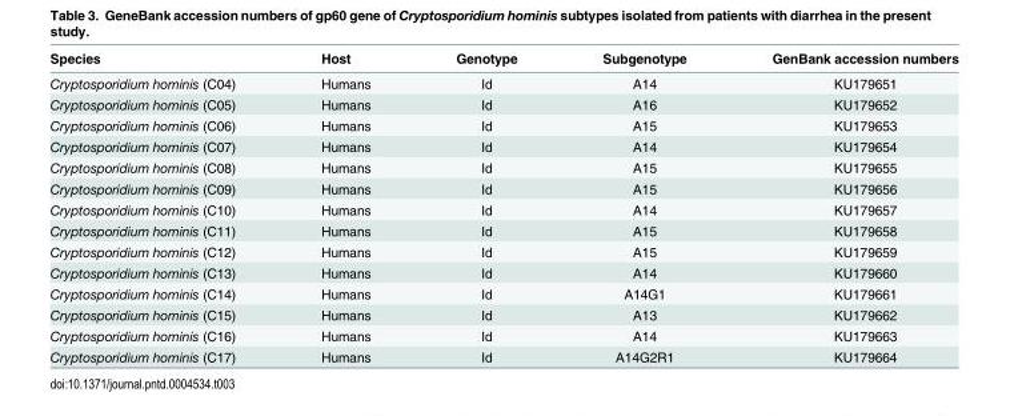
<table><thead><tr><td>Species</td><td>Host</td><td>Genotype</td><td>Subgenotype</td><td>GenBank accession numbers</td></tr></thead><tbody><tr><td>Cryptosporidium hominis (C04)</td><td>Humans</td><td>Id</td><td>A14</td><td>KU179651</td></tr><tr><td>Cryptosporidium hominis (C05)</td><td>Humans</td><td>Id</td><td>A16</td><td>KU179652</td></tr><tr><td>Cryptosporidium hominis (C06)</td><td>Humans</td><td>Id</td><td>A15</td><td>KU179653</td></tr><tr><td>Cryptosporidium hominis (C07)</td><td>Humans</td><td>Id</td><td>A14</td><td>KU179654</td></tr><tr><td>Cryptosporidium hominis (C08)</td><td>Humans</td><td>Id</td><td>A15</td><td>KU179655</td></tr><tr><td>Cryptosporidium hominis (C09)</td><td>Humans</td><td>Id</td><td>A15</td><td>KU179656</td></tr><tr><td>Cryptosporidium hominis (C10)</td><td>Humans</td><td>Id</td><td>A14</td><td>KU179657</td></tr><tr><td>Cryptosporidium hominis (C11)</td><td>Humans</td><td>Id</td><td>A15</td><td>KU179658</td></tr><tr><td>Cryptosporidium hominis (C12)</td><td>Humans</td><td>Id</td><td>A15</td><td>KU179659</td></tr><tr><td>Cryptosporidium hominis (C13)</td><td>Humans</td><td>Id</td><td>A14</td><td>KU179660</td></tr><tr><td>Cryptosporidium hominis (C14)</td><td>Humans</td><td>Id</td><td>A14G1</td><td>KU179661</td></tr><tr><td>Cryptosporidium hominis (C15)</td><td>Humans</td><td>Id</td><td>A13</td><td>KU179662</td></tr><tr><td>Cryptosporidium hominis (C16)</td><td>Humans</td><td>Id</td><td>A14</td><td>KU179663</td></tr><tr><td>Cryptosporidium hominis (C17)</td><td>Humans</td><td>Id</td><td>A14G2R1</td><td>KU179664</td></tr></tbody></table>